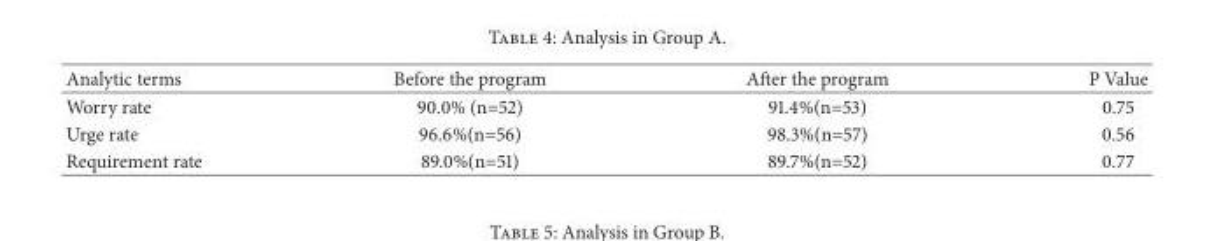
<table><thead><tr><td>Analytic terms</td><td>Before the program</td><td>After the program</td><td>P Value</td></tr></thead><tbody><tr><td>Worry rate</td><td>90.0% (n=52)</td><td>91.4%(n=53)</td><td>0.75</td></tr><tr><td>Urge rate</td><td>96.6%(n=56)</td><td>98.3%(n=57)</td><td>0.56</td></tr><tr><td>Requirement rate</td><td>89.0%(n=51)</td><td>89.7%(n=52)</td><td>0.77</td></tr></tbody></table>